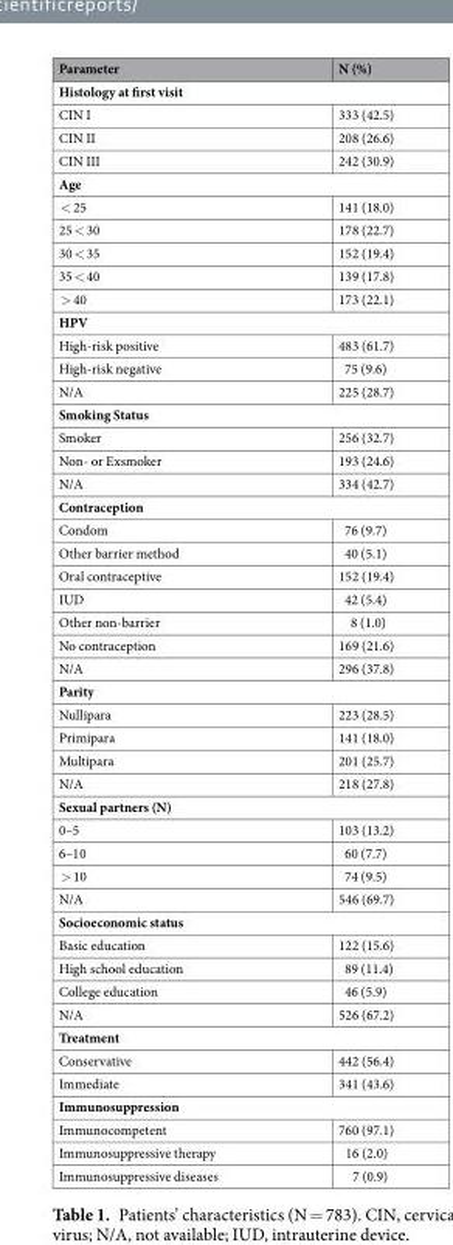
<table><thead><tr><td>Parameter</td><td>N (%)</td></tr></thead><tbody><tr><td colspan="2">Histology at first visit</td></tr><tr><td>CIN I</td><td>333 (42.5)</td></tr><tr><td>CIN II</td><td>208 (26.6)</td></tr><tr><td>CIN III</td><td>242 (30.9)</td></tr><tr><td colspan="2">Age</td></tr><tr><td>&lt; 25</td><td>141 (18.0)</td></tr><tr><td>25 &lt; 30</td><td>178 (22.7)</td></tr><tr><td>30 &lt; 35</td><td>152 (19.4)</td></tr><tr><td>35 &lt; 40</td><td>139 (17.8)</td></tr><tr><td>&gt; 40</td><td>173 (22.1)</td></tr><tr><td colspan="2">HPV</td></tr><tr><td>High-risk positive</td><td>483 (61.7)</td></tr><tr><td>High-risk negative</td><td>75 (9.6)</td></tr><tr><td>N/A</td><td>225 (28.7)</td></tr><tr><td colspan="2">Smoking Status</td></tr><tr><td>Smoker</td><td>256 (32.7)</td></tr><tr><td>Non- or Exsmoker</td><td>193 (24.6)</td></tr><tr><td>N/A</td><td>334 (42.7)</td></tr><tr><td colspan="2">Contraception</td></tr><tr><td>Condom</td><td>76 (9.7)</td></tr><tr><td>Other barrier method</td><td>40 (5.1)</td></tr><tr><td>Oral contraceptive</td><td>152 (19.4)</td></tr><tr><td>IUD</td><td>42 (5.4)</td></tr><tr><td>Other non-barrier</td><td>8 (1.0)</td></tr><tr><td>No contraception</td><td>169 (21.6)</td></tr><tr><td>N/A</td><td>296 (37.8)</td></tr><tr><td colspan="2">Parity</td></tr><tr><td>Nullipara</td><td>223 (28.5)</td></tr><tr><td>Primipara</td><td>141 (18.0)</td></tr><tr><td>Multipara</td><td>201 (25.7)</td></tr><tr><td>N/A</td><td>218 (27.8)</td></tr><tr><td colspan="2">Sexual partners (N)</td></tr><tr><td>0–5</td><td>103 (13.2)</td></tr><tr><td>6–10</td><td>60 (7.7)</td></tr><tr><td>&gt; 10</td><td>74 (9.5)</td></tr><tr><td>N/A</td><td>546 (69.7)</td></tr><tr><td colspan="2">Socioeconomic status</td></tr><tr><td>Basic education</td><td>122 (15.6)</td></tr><tr><td>High school education</td><td>89 (11.4)</td></tr><tr><td>College education</td><td>46 (5.9)</td></tr><tr><td>N/A</td><td>526 (67.2)</td></tr><tr><td colspan="2">Treatment</td></tr><tr><td>Conservative</td><td>442 (56.4)</td></tr><tr><td>Immediate</td><td>341 (43.6)</td></tr><tr><td colspan="2">Immunosuppression</td></tr><tr><td>Immunocompetent</td><td>760 (97.1)</td></tr><tr><td>Immunosuppressive therapy</td><td>16 (2.0)</td></tr><tr><td>Immunosuppressive diseases</td><td>7 (0.9)</td></tr></tbody></table>